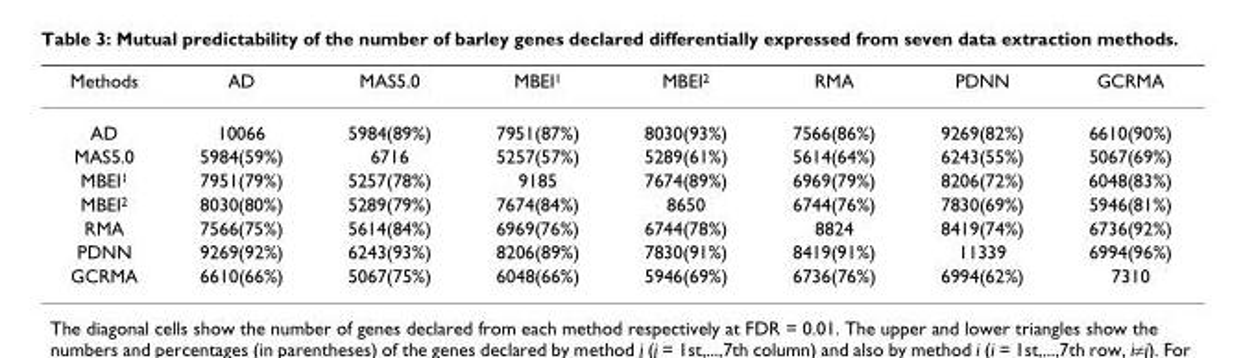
<table><thead><tr><td>Methods</td><td>AD</td><td>MAS5.0</td><td>MBEI<sup>1</sup></td><td>MBEI<sup>2</sup></td><td>RMA</td><td>PDNN</td><td>GCRMA</td></tr></thead><tbody><tr><td>AD</td><td>10066</td><td>5984(89%)</td><td>7951(87%)</td><td>8030(93%)</td><td>7566(86%)</td><td>9269(82%)</td><td>6610(90%)</td></tr><tr><td>MAS5.0</td><td>5984(59%)</td><td>6716</td><td>5257(57%)</td><td>5289(61%)</td><td>5614(64%)</td><td>6243(55%)</td><td>5067(69%)</td></tr><tr><td>MBEI<sup>1</sup></td><td>7951(79%)</td><td>5257(78%)</td><td>9185</td><td>7674(89%)</td><td>6969(79%)</td><td>8206(72%)</td><td>6048(83%)</td></tr><tr><td>MBEI<sup>2</sup></td><td>8030(80%)</td><td>5289(79%)</td><td>7674(84%)</td><td>8650</td><td>6744(76%)</td><td>7830(69%)</td><td>5946(81%)</td></tr><tr><td>RMA</td><td>7566(75%)</td><td>5614(84%)</td><td>6969(76%)</td><td>6744(78%)</td><td>8824</td><td>8419(74%)</td><td>6736(92%)</td></tr><tr><td>PDNN</td><td>9269(92%)</td><td>6243(93%)</td><td>8206(89%)</td><td>7830(91%)</td><td>8419(91%)</td><td>11339</td><td>6994(96%)</td></tr><tr><td>GCRMA</td><td>6610(66%)</td><td>5067(75%)</td><td>6048(66%)</td><td>5946(69%)</td><td>6736(76%)</td><td>6994(62%)</td><td>7310</td></tr></tbody></table>